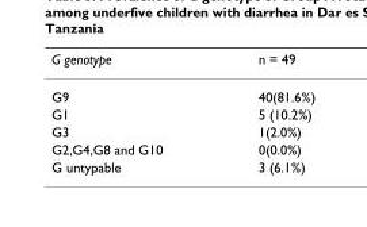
<table><thead><tr><td>G genotype</td><td>n = 49</td></tr></thead><tbody><tr><td>G9</td><td>40(81.6%)</td></tr><tr><td>G1</td><td>5 (10.2%)</td></tr><tr><td>G3</td><td>1(2.0%)</td></tr><tr><td>G2,G4,G8 and G10</td><td>0(0.0%)</td></tr><tr><td>G untypable</td><td>3 (6.1%)</td></tr></tbody></table>